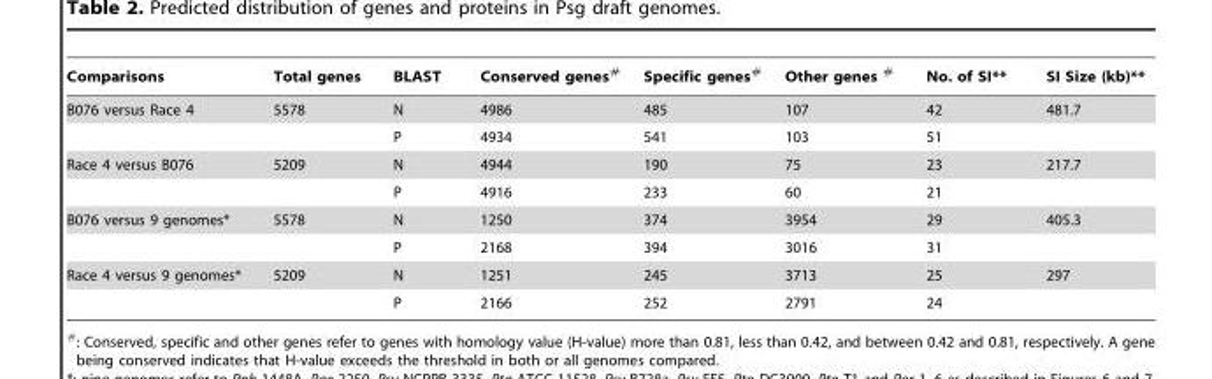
<table><thead><tr><td>Comparisons</td><td>Total genes</td><td>BLAST</td><td>Conserved genes#</td><td>Specific genes#</td><td>Other genes #</td><td>No. of SI**</td><td>SI Size (kb)**</td></tr></thead><tbody><tr><td rowspan="2">B076 versus Race 4</td><td>5578</td><td>N</td><td>4986</td><td>485</td><td>107</td><td>42</td><td>481.7</td></tr><tr><td></td><td>P</td><td>4934</td><td>541</td><td>103</td><td>51</td><td></td></tr><tr><td rowspan="2">Race 4 versus B076</td><td>5209</td><td>N</td><td>4944</td><td>190</td><td>75</td><td>23</td><td>217.7</td></tr><tr><td></td><td>P</td><td>4916</td><td>233</td><td>60</td><td>21</td><td></td></tr><tr><td rowspan="2">B076 versus 9 genomes*</td><td>5578</td><td>N</td><td>1250</td><td>374</td><td>3954</td><td>29</td><td>405.3</td></tr><tr><td></td><td>P</td><td>2168</td><td>394</td><td>3016</td><td>31</td><td></td></tr><tr><td rowspan="2">Race 4 versus 9 genomes*</td><td>5209</td><td>N</td><td>1251</td><td>245</td><td>3713</td><td>25</td><td>297</td></tr><tr><td></td><td>P</td><td>2166</td><td>252</td><td>2791</td><td>24</td><td></td></tr></tbody></table>